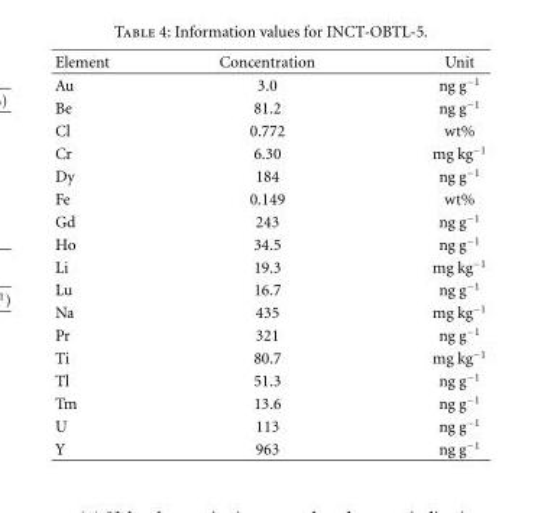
<table><thead><tr><td>Element</td><td>Concentration</td><td>Unit</td></tr></thead><tbody><tr><td>Au</td><td>3.0</td><td>ng g<sup>−1</sup></td></tr><tr><td>Be</td><td>81.2</td><td>ng g<sup>−1</sup></td></tr><tr><td>Cl</td><td>0.772</td><td>wt%</td></tr><tr><td>Cr</td><td>6.30</td><td>mg kg<sup>−1</sup></td></tr><tr><td>Dy</td><td>184</td><td>ng g<sup>−1</sup></td></tr><tr><td>Fe</td><td>0.149</td><td>wt%</td></tr><tr><td>Gd</td><td>243</td><td>ng g<sup>−1</sup></td></tr><tr><td>Ho</td><td>34.5</td><td>ng g<sup>−1</sup></td></tr><tr><td>Li</td><td>19.3</td><td>mg kg<sup>−1</sup></td></tr><tr><td>Lu</td><td>16.7</td><td>ng g<sup>−1</sup></td></tr><tr><td>Na</td><td>435</td><td>mg kg<sup>−1</sup></td></tr><tr><td>Pr</td><td>321</td><td>ng g<sup>−1</sup></td></tr><tr><td>Ti</td><td>80.7</td><td>mg kg<sup>−1</sup></td></tr><tr><td>Tl</td><td>51.3</td><td>ng g<sup>−1</sup></td></tr><tr><td>Tm</td><td>13.6</td><td>ng g<sup>−1</sup></td></tr><tr><td>U</td><td>113</td><td>ng g<sup>−1</sup></td></tr><tr><td>Y</td><td>963</td><td>ng g<sup>−1</sup></td></tr></tbody></table>